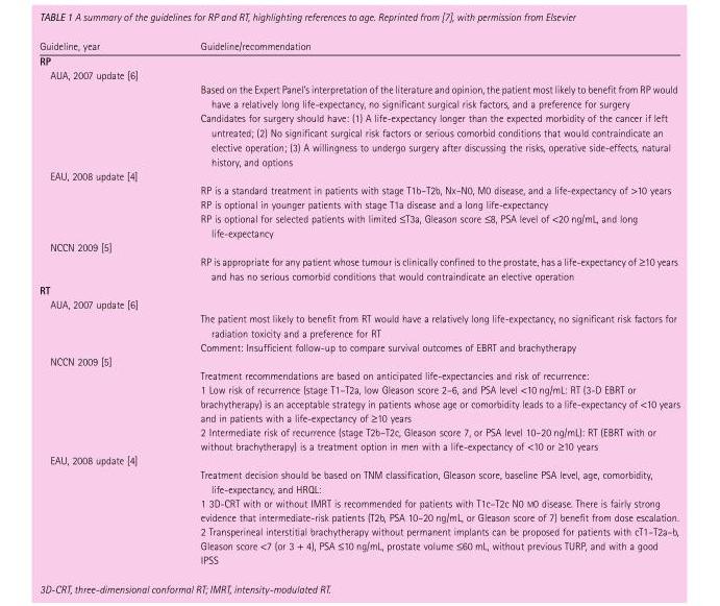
<table><thead><tr><td>Guideline, year</td><td>Guideline/recommendation</td></tr></thead><tbody><tr><td colspan="2">RP</td></tr><tr><td colspan="2">AUA, 2007 update [6]</td></tr><tr><td></td><td>Based on the Expert Panel’s interpretation of the literature and opinion, the patient most likely to benefit from RP would have a relatively long life-expectancy, no significant surgical risk factors, and a preference for surgery</td></tr><tr><td></td><td>Candidates for surgery should have: (1) A life-expectancy longer than the expected morbidity of the cancer if left untreated; (2) No significant surgical risk factors or serious comorbid conditions that would contraindicate an elective operation; (3) A willingness to undergo surgery after discussing the risks, operative side-effects, natural history, and options</td></tr><tr><td colspan="2">EAU, 2008 update [4]</td></tr><tr><td></td><td>RP is a standard treatment in patients with stage T1b–T2b, Nx–N0, M0 disease, and a life-expectancy of &gt; 10 years</td></tr><tr><td></td><td>RP is optional in younger patients with stage T1a disease and a long life-expectancy</td></tr><tr><td></td><td>RP is optional for selected patients with limited ≤ T3a, Gleason score ≤ 8, PSA level of &lt; 20 ng/mL, and long life-expectancy</td></tr><tr><td colspan="2">NCCN 2009 [5]</td></tr><tr><td></td><td>RP is appropriate for any patient whose tumour is clinically confined to the prostate, has a life-expectancy of ≥ 10 years and has no serious comorbid conditions that would contraindicate an elective operation</td></tr><tr><td colspan="2">RT</td></tr><tr><td colspan="2">AUA, 2007 update [6]</td></tr><tr><td></td><td>The patient most likely to benefit from RT would have a relatively long life-expectancy, no significant risk factors for radiation toxicity and a preference for RT</td></tr><tr><td></td><td>Comment: Insufficient follow-up to compare survival outcomes of EBRT and brachytherapy</td></tr><tr><td colspan="2">NCCN 2009 [5]</td></tr><tr><td></td><td>Treatment recommendations are based on anticipated life-expectancies and risk of recurrence: 1 Low risk of recurrence (stage T1–T2a, low Gleason score 2–6, and PSA level &lt; 10 ng/mL: RT (3-D EBRT or brachytherapy) is an acceptable strategy in patients whose age or comorbidity leads to a life-expectancy of &lt; 10 years and in patients with a life-expectancy of ≥ 10 years 2 Intermediate risk of recurrence (stage T2b–T2c, Gleason score 7, or PSA level 10–20 ng/mL): RT (EBRT with or without brachytherapy) is a treatment option in men with a life-expectancy of &lt; 10 or ≥ 10 years</td></tr><tr><td colspan="2">EAU, 2008 update [4]</td></tr><tr><td></td><td>Treatment decision should be based on TNM classification, Gleason score, baseline PSA level, age, comorbidity, life-expectancy, and HRQL: 1 3D-CRT with or without IMRT is recommended for patients with T1c–T2c N0 M 0 disease. There is fairly strong evidence that intermediate-risk patients (T2b, PSA 10–20 ng/mL, or Gleason score of 7) benefit from dose escalation. 2 Transperineal interstitial brachytherapy without permanent implants can be proposed for patients with cT1–T2a–b, Gleason score &lt; 7 (or 3 + 4), PSA ≤ 10 ng/mL, prostate volume ≤ 60 mL, without previous TURP, and with a good IPSS</td></tr></tbody></table>